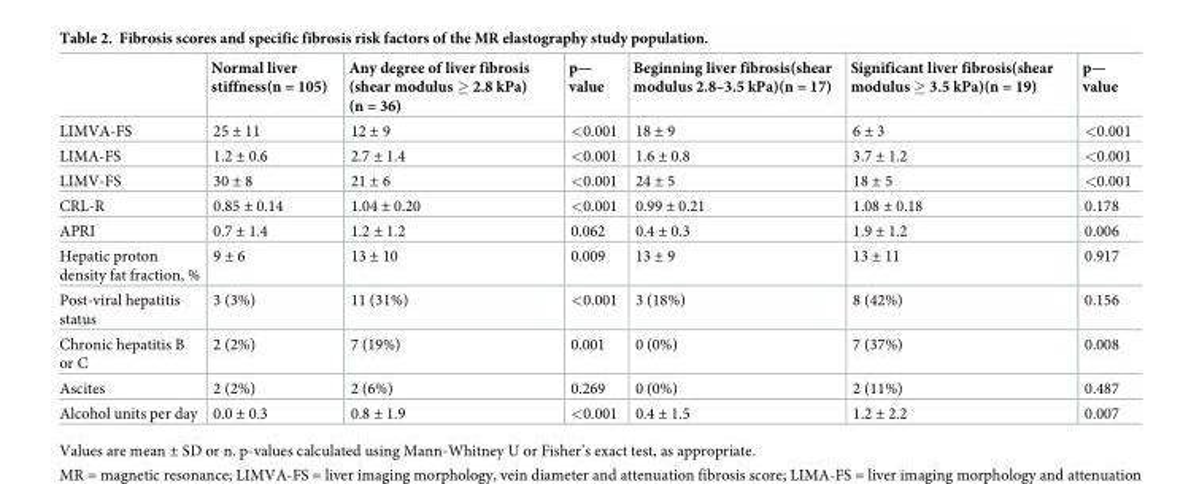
<table><thead><tr><td></td><td>Normal liver stiffness(n = 105)</td><td>Any degree of liver fibrosis (shear modulus ≥ 2.8 kPa) (n = 36)</td><td>p— value</td><td>Beginning liver fibrosis(shear modulus 2.8–3.5 kPa)(n = 17)</td><td>Significant liver fibrosis(shear modulus ≥ 3.5 kPa)(n = 19)</td><td>p— value</td></tr></thead><tbody><tr><td>LIMVA-FS</td><td>25 ± 11</td><td>12 ± 9</td><td>&lt;0.001</td><td>18 ± 9</td><td>6 ± 3</td><td>&lt;0.001</td></tr><tr><td>LIMA-FS</td><td>1.2 ± 0.6</td><td>2.7 ± 1.4</td><td>&lt;0.001</td><td>1.6 ± 0.8</td><td>3.7 ± 1.2</td><td>&lt;0.001</td></tr><tr><td>LIMV-FS</td><td>30 ± 8</td><td>21 ± 6</td><td>&lt;0.001</td><td>24 ± 5</td><td>18 ± 5</td><td>&lt;0.001</td></tr><tr><td>CRL-R</td><td>0.85 ± 0.14</td><td>1.04 ± 0.20</td><td>&lt;0.001</td><td>0.99 ± 0.21</td><td>1.08 ± 0.18</td><td>0.178</td></tr><tr><td>APRI</td><td>0.7 ± 1.4</td><td>1.2 ± 1.2</td><td>0.062</td><td>0.4 ± 0.3</td><td>1.9 ± 1.2</td><td>0.006</td></tr><tr><td>Hepatic proton density fat fraction, %</td><td>9 ± 6</td><td>13 ± 10</td><td>0.009</td><td>13 ± 9</td><td>13 ± 11</td><td>0.917</td></tr><tr><td>Post-viral hepatitis status</td><td>3 (3%)</td><td>11 (31%)</td><td>&lt;0.001</td><td>3 (18%)</td><td>8 (42%)</td><td>0.156</td></tr><tr><td>Chronic hepatitis B or C</td><td>2 (2%)</td><td>7 (19%)</td><td>0.001</td><td>0 (0%)</td><td>7 (37%)</td><td>0.008</td></tr><tr><td>Ascites</td><td>2 (2%)</td><td>2 (6%)</td><td>0.269</td><td>0 (0%)</td><td>2 (11%)</td><td>0.487</td></tr><tr><td>Alcohol units per day</td><td>0.0 ± 0.3</td><td>0.8 ± 1.9</td><td>&lt;0.001</td><td>0.4 ± 1.5</td><td>1.2 ± 2.2</td><td>0.007</td></tr></tbody></table>